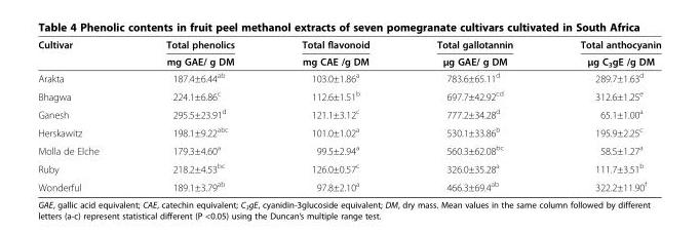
<table><thead><tr><td rowspan="2">Cultivar</td><td rowspan="2">Total phenolics mg GAE/ g DM</td><td rowspan="2">Total flavonoid mg CAE /g DM</td><td rowspan="2">Total gallotannin μg GAE/ g DM</td><td rowspan="2">Total anthocyanin μg C<sub>3</sub>gE /g DM</td></tr><tr></tr></thead><tbody><tr><td>Arakta</td><td>187.4±6.44<sup>ab</sup></td><td>103.0±1.86<sup>a</sup></td><td>783.6±65.11<sup>d</sup></td><td>289.7±1.63<sup>d</sup></td></tr><tr><td>Bhagwa</td><td>224.1±6.86<sup>c</sup></td><td>112.6±1.51<sup>b</sup></td><td>697.7±42.92<sup>cd</sup></td><td>312.6±1.25<sup>e</sup></td></tr><tr><td>Ganesh</td><td>295.5±23.91<sup>d</sup></td><td>121.1±3.12<sup>c</sup></td><td>777.2±34.28<sup>d</sup></td><td>65.1±1.00<sup>a</sup></td></tr><tr><td>Herskawitz</td><td>198.1±9.22<sup>abc</sup></td><td>101.0±1.02<sup>a</sup></td><td>530.1±33.86<sup>b</sup></td><td>195.9±2.25<sup>c</sup></td></tr><tr><td>Molla de Elche</td><td>179.3±4.60<sup>a</sup></td><td>99.5±2.94<sup>a</sup></td><td>560.3±62.08<sup>bc</sup></td><td>58.5±1.27<sup>a</sup></td></tr><tr><td>Ruby</td><td>218.2±4.53<sup>bc</sup></td><td>126.0±0.57<sup>c</sup></td><td>326.0±35.28<sup>a</sup></td><td>111.7±3.51<sup>b</sup></td></tr><tr><td>Wonderful</td><td>189.1±3.79<sup>ab</sup></td><td>97.8±2.10<sup>a</sup></td><td>466.3±69.4<sup>ab</sup></td><td>322.2±11.90<sup>f</sup></td></tr></tbody></table>